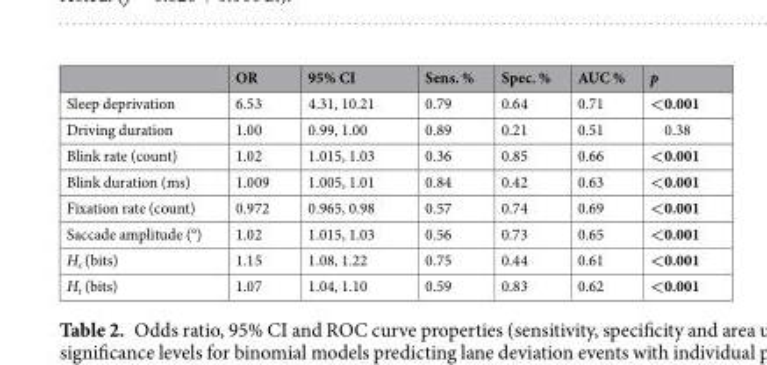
<table><thead><tr><td></td><td>OR</td><td>95% CI</td><td>Sens. %</td><td>Spec. %</td><td>AUC %</td><td>p</td></tr></thead><tbody><tr><td>Sleep deprivation</td><td>6.53</td><td>4.31, 10.21</td><td>0.79</td><td>0.64</td><td>0.71</td><td>&lt;0.001</td></tr><tr><td>Driving duration</td><td>1.00</td><td>0.99, 1.00</td><td>0.89</td><td>0.21</td><td>0.51</td><td>0.38</td></tr><tr><td>Blink rate (count)</td><td>1.02</td><td>1.015, 1.03</td><td>0.36</td><td>0.85</td><td>0.66</td><td>&lt;0.001</td></tr><tr><td>Blink duration (ms)</td><td>1.009</td><td>1.005, 1.01</td><td>0.84</td><td>0.42</td><td>0.63</td><td>&lt;0.001</td></tr><tr><td>Fixation rate (count)</td><td>0.972</td><td>0.965, 0.98</td><td>0.57</td><td>0.74</td><td>0.69</td><td>&lt;0.001</td></tr><tr><td>Saccade amplitude (°)</td><td>1.02</td><td>1.015, 1.03</td><td>0.56</td><td>0.73</td><td>0.65</td><td>&lt;0.001</td></tr><tr><td>H<sub>s</sub> (bits)</td><td>1.15</td><td>1.08, 1.22</td><td>0.75</td><td>0.44</td><td>0.61</td><td>&lt;0.001</td></tr><tr><td>H<sub>t</sub> (bits)</td><td>1.07</td><td>1.04, 1.10</td><td>0.59</td><td>0.83</td><td>0.62</td><td>&lt;0.001</td></tr></tbody></table>